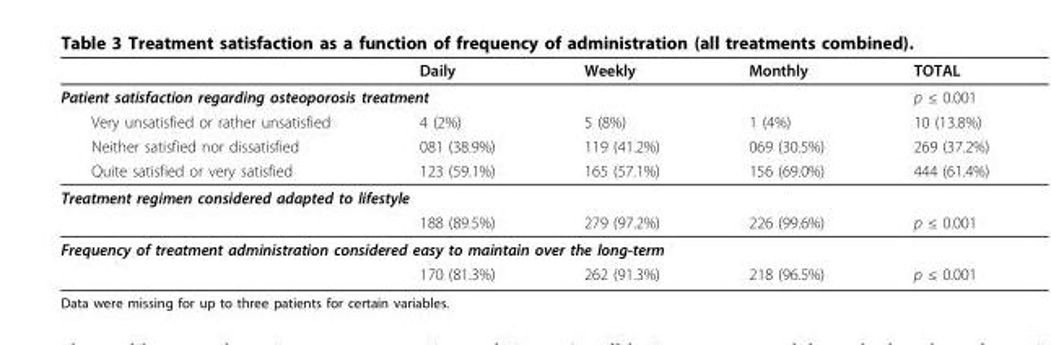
<table><thead><tr><td></td><td>Daily</td><td>Weekly</td><td>Monthly</td><td>TOTAL</td></tr></thead><tbody><tr><td colspan="4">Patient satisfaction regarding osteoporosis treatment</td><td>p ≤ 0.001</td></tr><tr><td>Very unsatisfied or rather unsatisfied</td><td>4 (2%)</td><td>5 (8%)</td><td>1 (4%)</td><td>10 (13.8%)</td></tr><tr><td>Neither satisfied nor dissatisfied</td><td>081 (38.9%)</td><td>119 (41.2%)</td><td>069 (30.5%)</td><td>269 (37.2%)</td></tr><tr><td>Quite satisfied or very satisfied</td><td>123 (59.1%)</td><td>165 (57.1%)</td><td>156 (69.0%)</td><td>444 (61.4%)</td></tr><tr><td colspan="5">Treatment regimen considered adapted to lifestyle</td></tr><tr><td></td><td>188 (89.5%)</td><td>279 (97.2%)</td><td>226 (99.6%)</td><td>p ≤ 0.001</td></tr><tr><td colspan="5">Frequency of treatment administration considered easy to maintain over the long-term</td></tr><tr><td></td><td>170 (81.3%)</td><td>262 (91.3%)</td><td>218 (96.5%)</td><td>p ≤ 0.001</td></tr></tbody></table>